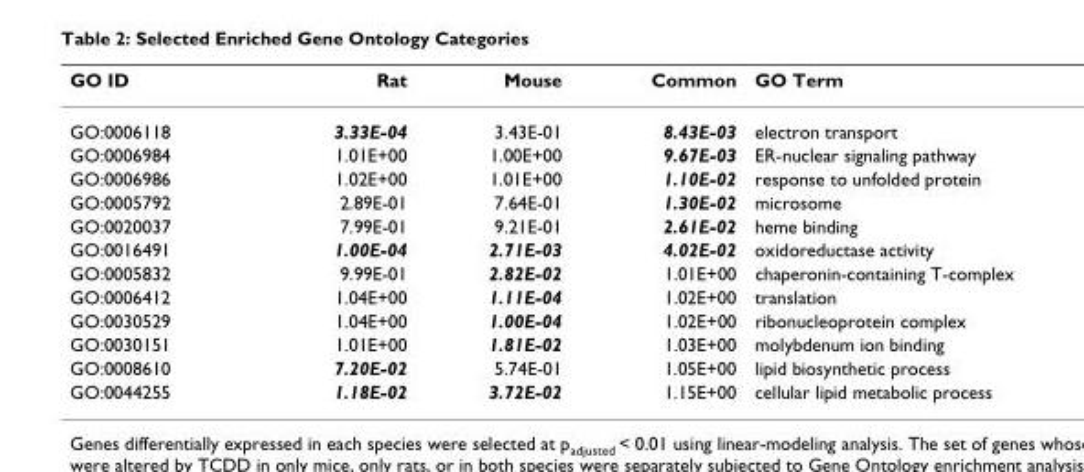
<table><thead><tr><td>GO ID</td><td>Rat</td><td>Mouse</td><td>Common</td><td>GO Term</td></tr></thead><tbody><tr><td>GO:0006118</td><td>3.33E-04</td><td>3.43E-01</td><td>8.43E-03</td><td>electron transport</td></tr><tr><td>GO:0006984</td><td>1.01E+00</td><td>1.00E+00</td><td>9.67E-03</td><td>ER-nuclear signaling pathway</td></tr><tr><td>GO:0006986</td><td>1.02E+00</td><td>1.01E+00</td><td>1.10E-02</td><td>response to unfolded protein</td></tr><tr><td>GO:0005792</td><td>2.89E-01</td><td>7.64E-01</td><td>1.30E-02</td><td>microsome</td></tr><tr><td>GO:0020037</td><td>7.99E-01</td><td>9.21E-01</td><td>2.61E-02</td><td>heme binding</td></tr><tr><td>GO:0016491</td><td>1.00E-04</td><td>2.71E-03</td><td>4.02E-02</td><td>oxidoreductase activity</td></tr><tr><td>GO:0005832</td><td>9.99E-01</td><td>2.82E-02</td><td>1.01E+00</td><td>chaperonin-containing T-complex</td></tr><tr><td>GO:0006412</td><td>1.04E+00</td><td>1.11E-04</td><td>1.02E+00</td><td>translation</td></tr><tr><td>GO:0030529</td><td>1.04E+00</td><td>1.00E-04</td><td>1.02E+00</td><td>ribonucleoprotein complex</td></tr><tr><td>GO:0030151</td><td>1.01E+00</td><td>1.81E-02</td><td>1.03E+00</td><td>molybdenum ion binding</td></tr><tr><td>GO:0008610</td><td>7.20E-02</td><td>5.74E-01</td><td>1.05E+00</td><td>lipid biosynthetic process</td></tr><tr><td>GO:0044255</td><td>1.18E-02</td><td>3.72E-02</td><td>1.15E+00</td><td>cellular lipid metabolic process</td></tr></tbody></table>